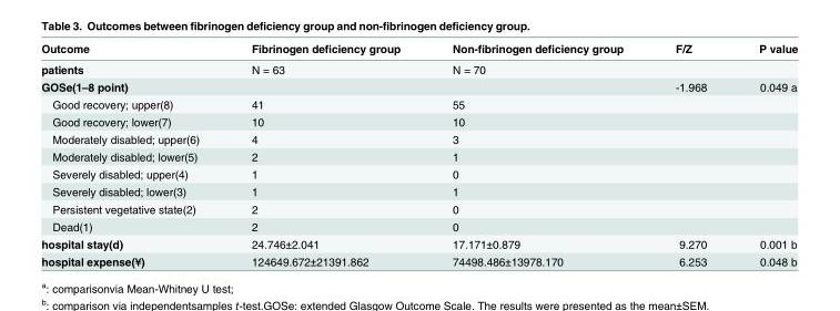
<table><thead><tr><td>Outcome</td><td>Fibrinogen deficiency group</td><td>Non-fibrinogen deficiency group</td><td>F/Z</td><td>P value</td></tr></thead><tbody><tr><td>patients</td><td>N = 63</td><td>N = 70</td><td></td><td></td></tr><tr><td>GOSe(1–8 point)</td><td></td><td></td><td>-1.968</td><td>0.049 a</td></tr><tr><td>Good recovery; upper(8)</td><td>41</td><td>55</td><td></td><td></td></tr><tr><td>Good recovery; lower(7)</td><td>10</td><td>10</td><td></td><td></td></tr><tr><td>Moderately disabled; upper(6)</td><td>4</td><td>3</td><td></td><td></td></tr><tr><td>Moderately disabled; lower(5)</td><td>2</td><td>1</td><td></td><td></td></tr><tr><td>Severely disabled; upper(4)</td><td>1</td><td>0</td><td></td><td></td></tr><tr><td>Severely disabled; lower(3)</td><td>1</td><td>1</td><td></td><td></td></tr><tr><td>Persistent vegetative state(2)</td><td>2</td><td>0</td><td></td><td></td></tr><tr><td>Dead(1)</td><td>2</td><td>0</td><td></td><td></td></tr><tr><td>hospital stay(d)</td><td>24.746±2.041</td><td>17.171±0.879</td><td>9.270</td><td>0.001 b</td></tr><tr><td>hospital expense(¥)</td><td>124649.672±21391.862</td><td>74498.486±13978.170</td><td>6.253</td><td>0.048 b</td></tr></tbody></table>